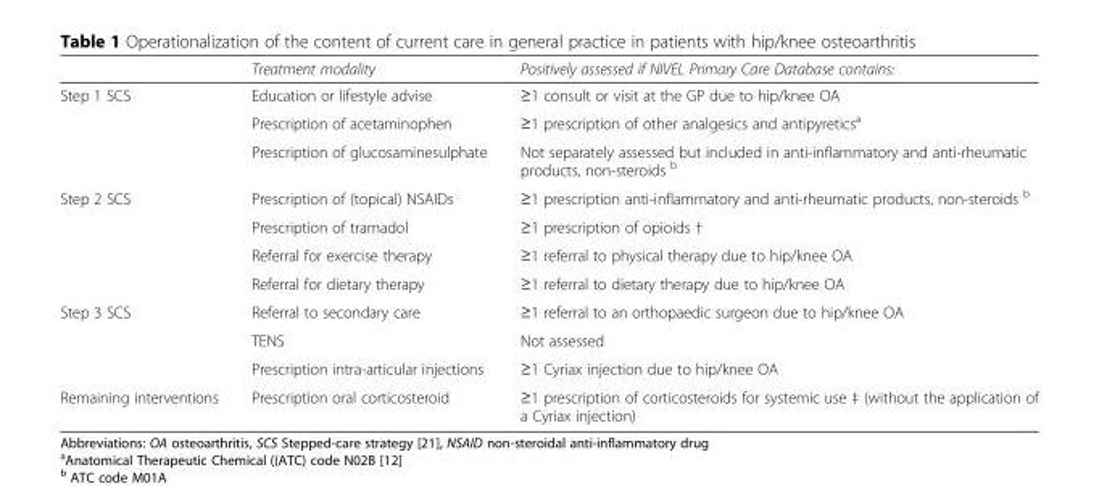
<table><thead><tr><td></td><td>Treatment modality</td><td>Positively assessed if NIVEL Primary Care Database contains:</td></tr></thead><tbody><tr><td rowspan="3">Step 1 SCS</td><td>Education or lifestyle advise</td><td>≥1 consult or visit at the GP due to hip/knee OA</td></tr><tr><td>Prescription of acetaminophen</td><td>≥1 prescription of other analgesics and antipyretics<sup>a</sup></td></tr><tr><td>Prescription of glucosaminesulphate</td><td>Not separately assessed but included in anti-inflammatory and anti-rheumatic products, non-steroids <sup>b</sup></td></tr><tr><td rowspan="4">Step 2 SCS</td><td>Prescription of (topical) NSAIDs</td><td>≥1 prescription anti-inflammatory and anti-rheumatic products, non-steroids <sup>b</sup></td></tr><tr><td>Prescription of tramadol</td><td>≥1 prescription of opioids †</td></tr><tr><td>Referral for exercise therapy</td><td>≥1 referral to physical therapy due to hip/knee OA</td></tr><tr><td>Referral for dietary therapy</td><td>≥1 referral to dietary therapy due to hip/knee OA</td></tr><tr><td rowspan="3">Step 3 SCS</td><td>Referral to secondary care</td><td>≥1 referral to an orthopaedic surgeon due to hip/knee OA</td></tr><tr><td>TENS</td><td>Not assessed</td></tr><tr><td>Prescription intra-articular injections</td><td>≥1 Cyriax injection due to hip/knee OA</td></tr><tr><td>Remaining interventions</td><td>Prescription oral corticosteroid</td><td>≥1 prescription of corticosteroids for systemic use ‡ (without the application of a Cyriax injection)</td></tr></tbody></table>